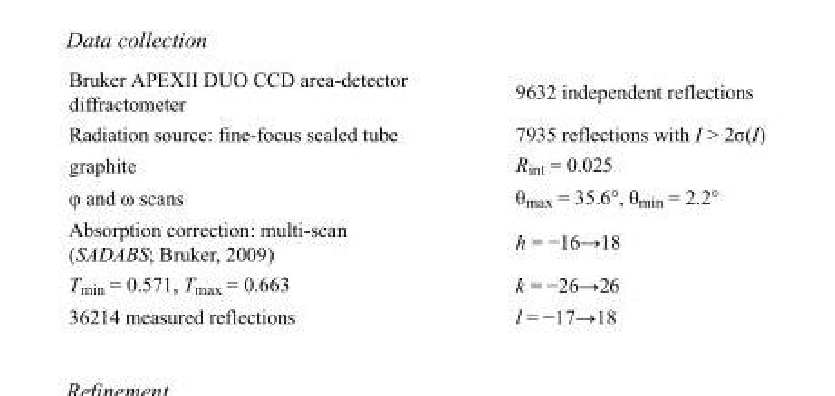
<table><tbody><tr><td>Bruker APEXII DUO CCD area-detector diffractometer</td><td>9632 independent reflections</td></tr><tr><td>Radiation source: fine-focus sealed tube</td><td>7935 reflections with I &gt; 2σ(I)</td></tr><tr><td>graphite</td><td>R<sub>int</sub> = 0.025</td></tr><tr><td>φ and ω scans</td><td>θ<sub>max</sub> = 35.6°, θ<sub>min</sub> = 2.2°</td></tr><tr><td>Absorption correction: multi-scan (SADABS; Bruker, 2009)</td><td>h = −16→18</td></tr><tr><td>T<sub>min</sub> = 0.571, T<sub>max</sub> = 0.663</td><td>k = −26→26</td></tr><tr><td>36214 measured reflections</td><td>l = −17→18</td></tr></tbody></table>